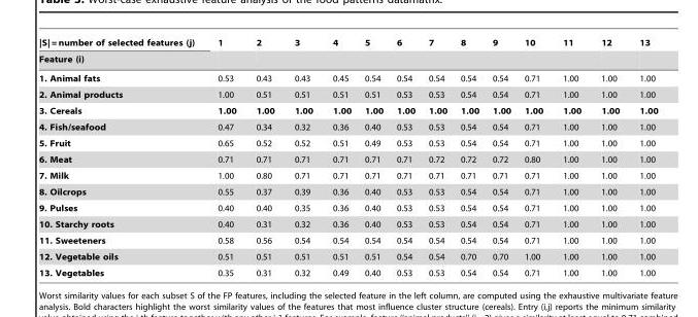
<table><thead><tr><td rowspan="2">|S| = number of selected features (j) Feature (i)</td><td rowspan="2">1</td><td rowspan="2">2</td><td rowspan="2">3</td><td rowspan="2">4</td><td rowspan="2">5</td><td rowspan="2">6</td><td rowspan="2">7</td><td rowspan="2">8</td><td rowspan="2">9</td><td rowspan="2">10</td><td rowspan="2">11</td><td rowspan="2">12</td><td rowspan="2">13</td></tr><tr></tr></thead><tbody><tr><td>1. Animal fats</td><td>0.53</td><td>0.43</td><td>0.43</td><td>0.45</td><td>0.54</td><td>0.54</td><td>0.54</td><td>0.54</td><td>0.54</td><td>0.71</td><td>1.00</td><td>1.00</td><td>1.00</td></tr><tr><td>2. Animal products</td><td>1.00</td><td>0.51</td><td>0.51</td><td>0.51</td><td>0.51</td><td>0.53</td><td>0.53</td><td>0.54</td><td>0.54</td><td>0.71</td><td>1.00</td><td>1.00</td><td>1.00</td></tr><tr><td>3. Cereals</td><td>1.00</td><td>1.00</td><td>1.00</td><td>1.00</td><td>1.00</td><td>1.00</td><td>1.00</td><td>1.00</td><td>1.00</td><td>1.00</td><td>1.00</td><td>1.00</td><td>1.00</td></tr><tr><td>4. Fish/seafood</td><td>0.47</td><td>0.34</td><td>0.32</td><td>0.36</td><td>0.40</td><td>0.53</td><td>0.53</td><td>0.54</td><td>0.54</td><td>0.71</td><td>1.00</td><td>1.00</td><td>1.00</td></tr><tr><td>5. Fruit</td><td>0.65</td><td>0.52</td><td>0.52</td><td>0.51</td><td>0.49</td><td>0.53</td><td>0.53</td><td>0.54</td><td>0.54</td><td>0.71</td><td>1.00</td><td>1.00</td><td>1.00</td></tr><tr><td>6. Meat</td><td>0.71</td><td>0.71</td><td>0.71</td><td>0.71</td><td>0.71</td><td>0.71</td><td>0.72</td><td>0.72</td><td>0.72</td><td>0.80</td><td>1.00</td><td>1.00</td><td>1.00</td></tr><tr><td>7. Milk</td><td>1.00</td><td>0.80</td><td>0.71</td><td>0.71</td><td>0.71</td><td>0.71</td><td>0.71</td><td>0.71</td><td>0.71</td><td>0.71</td><td>1.00</td><td>1.00</td><td>1.00</td></tr><tr><td>8. Oilcrops</td><td>0.55</td><td>0.37</td><td>0.39</td><td>0.36</td><td>0.40</td><td>0.53</td><td>0.53</td><td>0.54</td><td>0.54</td><td>0.71</td><td>1.00</td><td>1.00</td><td>1.00</td></tr><tr><td>9. Pulses</td><td>0.40</td><td>0.40</td><td>0.35</td><td>0.36</td><td>0.40</td><td>0.53</td><td>0.53</td><td>0.54</td><td>0.54</td><td>0.71</td><td>1.00</td><td>1.00</td><td>1.00</td></tr><tr><td>10. Starchy roots</td><td>0.40</td><td>0.31</td><td>0.32</td><td>0.36</td><td>0.40</td><td>0.53</td><td>0.53</td><td>0.54</td><td>0.54</td><td>0.71</td><td>1.00</td><td>1.00</td><td>1.00</td></tr><tr><td>11. Sweeteners</td><td>0.58</td><td>0.56</td><td>0.54</td><td>0.54</td><td>0.54</td><td>0.54</td><td>0.54</td><td>0.54</td><td>0.54</td><td>0.71</td><td>1.00</td><td>1.00</td><td>1.00</td></tr><tr><td>12. Vegetable oils</td><td>0.51</td><td>0.51</td><td>0.51</td><td>0.51</td><td>0.51</td><td>0.54</td><td>0.54</td><td>0.70</td><td>0.70</td><td>1.00</td><td>1.00</td><td>1.00</td><td>1.00</td></tr><tr><td>13. Vegetables</td><td>0.35</td><td>0.31</td><td>0.32</td><td>0.49</td><td>0.40</td><td>0.53</td><td>0.53</td><td>0.54</td><td>0.54</td><td>0.71</td><td>1.00</td><td>1.00</td><td>1.00</td></tr></tbody></table>